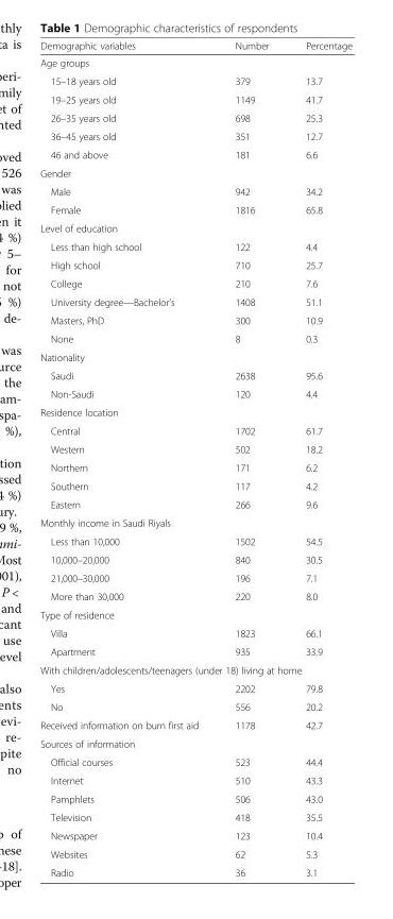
<table><thead><tr><td>Demographic variables</td><td>Number</td><td>Percentage</td></tr></thead><tbody><tr><td colspan="3">Age groups</td></tr><tr><td>15–18 years old</td><td>379</td><td>13.7</td></tr><tr><td>19–25 years old</td><td>1149</td><td>41.7</td></tr><tr><td>26–35 years old</td><td>698</td><td>25.3</td></tr><tr><td>36–45 years old</td><td>351</td><td>12.7</td></tr><tr><td>46 and above</td><td>181</td><td>6.6</td></tr><tr><td colspan="3">Gender</td></tr><tr><td>Male</td><td>942</td><td>34.2</td></tr><tr><td>Female</td><td>1816</td><td>65.8</td></tr><tr><td colspan="3">Level of education</td></tr><tr><td>Less than high school</td><td>122</td><td>4.4</td></tr><tr><td>High school</td><td>710</td><td>25.7</td></tr><tr><td>College</td><td>210</td><td>7.6</td></tr><tr><td>University degree—Bachelor’s</td><td>1408</td><td>51.1</td></tr><tr><td>Masters, PhD</td><td>300</td><td>10.9</td></tr><tr><td>None</td><td>8</td><td>0.3</td></tr><tr><td colspan="3">Nationality</td></tr><tr><td>Saudi</td><td>2638</td><td>95.6</td></tr><tr><td>Non-Saudi</td><td>120</td><td>4.4</td></tr><tr><td colspan="3">Residence location</td></tr><tr><td>Central</td><td>1702</td><td>61.7</td></tr><tr><td>Western</td><td>502</td><td>18.2</td></tr><tr><td>Northern</td><td>171</td><td>6.2</td></tr><tr><td>Southern</td><td>117</td><td>4.2</td></tr><tr><td>Eastern</td><td>266</td><td>9.6</td></tr><tr><td colspan="3">Monthly income in Saudi Riyals</td></tr><tr><td>Less than 10,000</td><td>1502</td><td>54.5</td></tr><tr><td>10,000–20,000</td><td>840</td><td>30.5</td></tr><tr><td>21,000–30,000</td><td>196</td><td>7.1</td></tr><tr><td>More than 30,000</td><td>220</td><td>8.0</td></tr><tr><td colspan="3">Type of residence</td></tr><tr><td>Villa</td><td>1823</td><td>66.1</td></tr><tr><td>Apartment</td><td>935</td><td>33.9</td></tr><tr><td colspan="3">With children/adolescents/teenagers (under 18) living at home</td></tr><tr><td>Yes</td><td>2202</td><td>79.8</td></tr><tr><td>No</td><td>556</td><td>20.2</td></tr><tr><td>Received information on burn first aid</td><td>1178</td><td>42.7</td></tr><tr><td colspan="3">Sources of information</td></tr><tr><td>Official courses</td><td>523</td><td>44.4</td></tr><tr><td>Internet</td><td>510</td><td>43.3</td></tr><tr><td>Pamphlets</td><td>506</td><td>43.0</td></tr><tr><td>Television</td><td>418</td><td>35.5</td></tr><tr><td>Newspaper</td><td>123</td><td>10.4</td></tr><tr><td>Websites</td><td>62</td><td>5.3</td></tr><tr><td>Radio</td><td>36</td><td>3.1</td></tr></tbody></table>